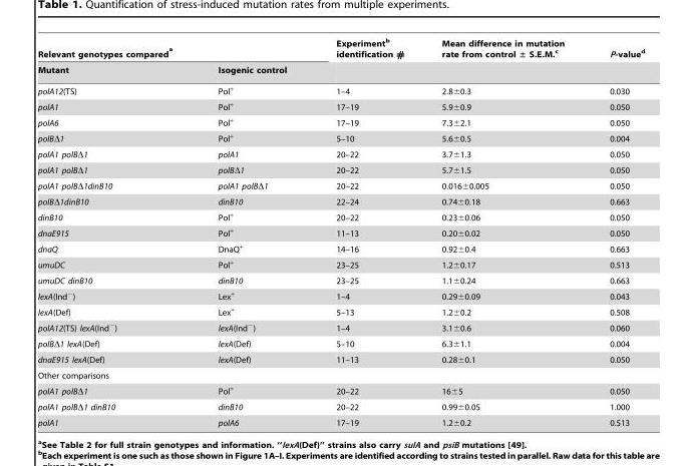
<table><thead><tr><td colspan="2">Relevant genotypes compared <sup>a</sup></td><td rowspan="2">Experiment<sup>b</sup> identification #</td><td rowspan="2">Mean difference in mutation rate from control ± S.E.M.<sup>c</sup></td><td rowspan="2">P-value<sup>d</sup></td></tr><tr><td>Mutant</td><td>Isogenic control</td></tr></thead><tbody><tr><td>polA12(TS)</td><td>Pol<sup>+</sup></td><td>1–4</td><td>2.8±0.3</td><td>0.030</td></tr><tr><td>polA1</td><td>Pol<sup>+</sup></td><td>17–19</td><td>5.9±0.9</td><td>0.050</td></tr><tr><td>polA6</td><td>Pol<sup>+</sup></td><td>17–19</td><td>7.3±2.1</td><td>0.050</td></tr><tr><td>polBΔ1</td><td>Pol<sup>+</sup></td><td>5–10</td><td>5.6±0.5</td><td>0.004</td></tr><tr><td>polA1 polBΔ1</td><td>polA1</td><td>20–22</td><td>3.7±1.3</td><td>0.050</td></tr><tr><td>polA1 polBΔ1</td><td>polBΔ1</td><td>20–22</td><td>5.7±1.5</td><td>0.050</td></tr><tr><td>polA1 polBΔ1dinB10</td><td>polA1 polBΔ1</td><td>20–22</td><td>0.016±0.005</td><td>0.050</td></tr><tr><td>polBΔ1dinB10</td><td>dinB10</td><td>22–24</td><td>0.74±0.18</td><td>0.663</td></tr><tr><td>dinB10</td><td>Pol<sup>+</sup></td><td>20–22</td><td>0.23±0.06</td><td>0.050</td></tr><tr><td>dnaE915</td><td>Pol<sup>+</sup></td><td>11–13</td><td>0.20±0.02</td><td>0.050</td></tr><tr><td>dnaQ</td><td>DnaQ<sup>+</sup></td><td>14–16</td><td>0.92±0.4</td><td>0.663</td></tr><tr><td>umuDC</td><td>Pol<sup>+</sup></td><td>23–25</td><td>1.2±0.17</td><td>0.513</td></tr><tr><td>umuDC dinB10</td><td>dinB10</td><td>23–25</td><td>1.1±0.24</td><td>0.663</td></tr><tr><td>lexA(Ind<sup>−</sup>)</td><td>Lex<sup>+</sup></td><td>1–4</td><td>0.29±0.09</td><td>0.043</td></tr><tr><td>lexA(Def)</td><td>Lex<sup>+</sup></td><td>5–13</td><td>1.2±0.2</td><td>0.508</td></tr><tr><td>polA12(TS) lexA(Ind<sup>−</sup>)</td><td>lexA(Ind<sup>−</sup>)</td><td>1–4</td><td>3.1±0.6</td><td>0.060</td></tr><tr><td>polBΔ1 lexA(Def)</td><td>lexA(Def)</td><td>5–10</td><td>6.3±1.1</td><td>0.004</td></tr><tr><td>dnaE915 lexA(Def)</td><td>lexA(Def)</td><td>11–13</td><td>0.28±0.1</td><td>0.050</td></tr><tr><td colspan="5">Other comparisons</td></tr><tr><td>polA1 polBΔ1</td><td>Pol<sup>+</sup></td><td>20–22</td><td>16±5</td><td>0.050</td></tr><tr><td>polA1 polBΔ1 dinB10</td><td>dinB10</td><td>20–22</td><td>0.99±0.05</td><td>1.000</td></tr><tr><td>polA1</td><td>polA6</td><td>17–19</td><td>1.2±0.2</td><td>0.513</td></tr></tbody></table>